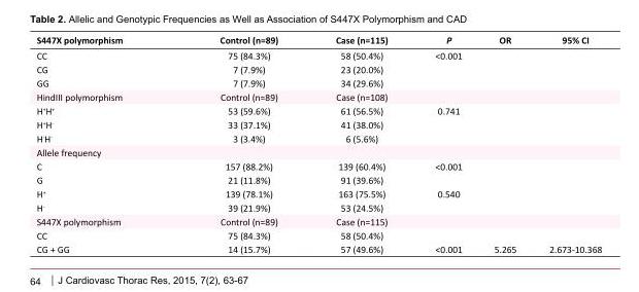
<table><tbody><tr><td>S447X polymorphism</td><td>Control (n=89)</td><td>Case (n=115)</td><td>P</td><td>OR</td><td>95% CI</td></tr><tr><td>CC</td><td>75 (84.3%)</td><td>58 (50.4%)</td><td>&lt;0.001</td><td></td><td></td></tr><tr><td>CG</td><td>7 (7.9%)</td><td>23 (20.0%)</td><td></td><td></td><td></td></tr><tr><td>GG</td><td>7 (7.9%)</td><td>34 (29.6%)</td><td></td><td></td><td></td></tr><tr><td>HindIII polymorphism</td><td>Control (n=89)</td><td>Case (n=108)</td><td></td><td></td><td></td></tr><tr><td>H<sup>+</sup>H<sup>+</sup></td><td>53 (59.6%)</td><td>61 (56.5%)</td><td>0.741</td><td></td><td></td></tr><tr><td>H<sup>+</sup>H-</td><td>33 (37.1%)</td><td>41 (38.0%)</td><td></td><td></td><td></td></tr><tr><td>H-H-</td><td>3 (3.4%)</td><td>6 (5.6%)</td><td></td><td></td><td></td></tr><tr><td colspan="6">Allele frequency</td></tr><tr><td>C</td><td>157 (88.2%)</td><td>139 (60.4%)</td><td>&lt;0.001</td><td></td><td></td></tr><tr><td>G</td><td>21 (11.8%)</td><td>91 (39.6%)</td><td></td><td></td><td></td></tr><tr><td>H<sup>+</sup></td><td>139 (78.1%)</td><td>163 (75.5%)</td><td>0.540</td><td></td><td></td></tr><tr><td>H-</td><td>39 (21.9%)</td><td>53 (24.5%)</td><td></td><td></td><td></td></tr><tr><td>S447X polymorphism</td><td>Control (n=89)</td><td>Case (n=115)</td><td></td><td></td><td></td></tr><tr><td>CC</td><td>75 (84.3%)</td><td>58 (50.4%)</td><td></td><td></td><td></td></tr><tr><td>CG + GG</td><td>14 (15.7%)</td><td>57 (49.6%)</td><td>&lt;0.001</td><td>5.265</td><td>2.673-10.368</td></tr></tbody></table>